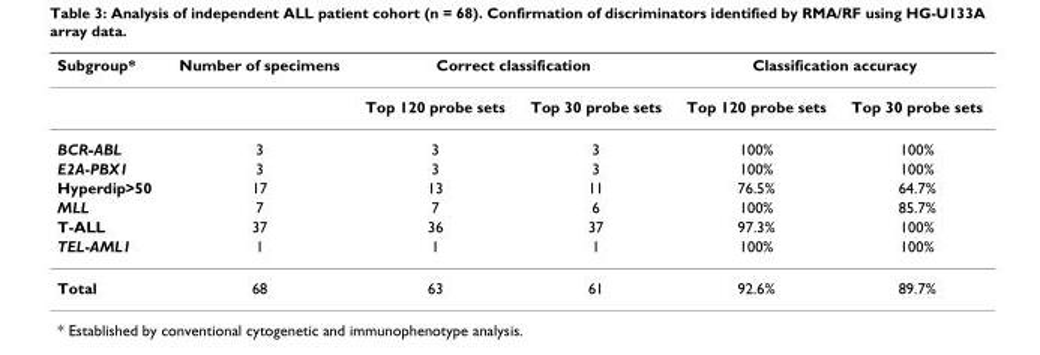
<table><thead><tr><td rowspan="2">Subgroup*</td><td rowspan="2">Number of specimens</td><td colspan="2">Correct classification</td><td colspan="2">Classification accuracy</td></tr><tr><td>Top 120 probe sets</td><td>Top 30 probe sets</td><td>Top 120 probe sets</td><td>Top 30 probe sets</td></tr></thead><tbody><tr><td>BCR-ABL</td><td>3</td><td>3</td><td>3</td><td>100%</td><td>100%</td></tr><tr><td>E2A-PBX1</td><td>3</td><td>3</td><td>3</td><td>100%</td><td>100%</td></tr><tr><td>Hyperdip&gt;50</td><td>17</td><td>13</td><td>11</td><td>76.5%</td><td>64.7%</td></tr><tr><td>MLL</td><td>7</td><td>7</td><td>6</td><td>100%</td><td>85.7%</td></tr><tr><td>T-ALL</td><td>37</td><td>36</td><td>37</td><td>97.3%</td><td>100%</td></tr><tr><td>TEL-AML1</td><td>1</td><td>1</td><td>1</td><td>100%</td><td>100%</td></tr><tr><td>Total</td><td>68</td><td>63</td><td>61</td><td>92.6%</td><td>89.7%</td></tr></tbody></table>